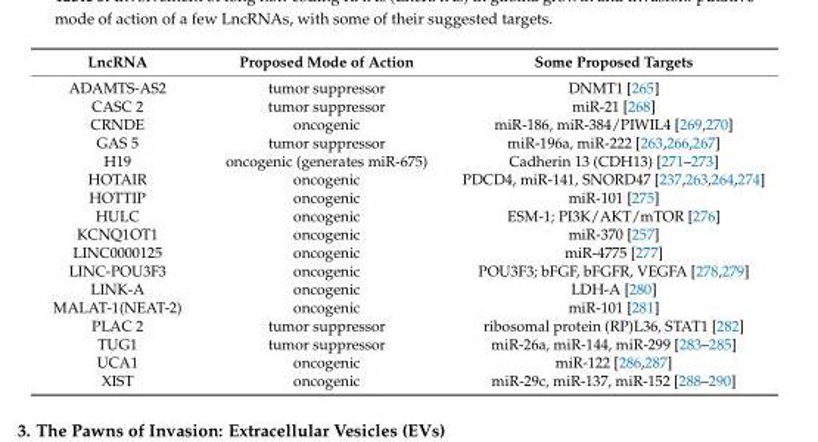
<table><thead><tr><td>LncRNA</td><td>Proposed Mode of Action</td><td>Some Proposed Targets</td></tr></thead><tbody><tr><td>ADAMTS-AS2</td><td>tumor suppressor</td><td>DNMT1 [265]</td></tr><tr><td>CASC 2</td><td>tumor suppressor</td><td>miR-21 [268]</td></tr><tr><td>CRNDE</td><td>oncogenic</td><td>miR-186, miR-384/PIWIL4 [269,270]</td></tr><tr><td>GAS 5</td><td>tumor suppressor</td><td>miR-196a, miR-222 [263,266,267]</td></tr><tr><td>H19</td><td>oncogenic (generates miR-675)</td><td>Cadherin 13 (CDH13) [271–273]</td></tr><tr><td>HOTAIR</td><td>oncogenic</td><td>PDCD4, miR-141, SNORD47 [237,263,264,274]</td></tr><tr><td>HOTTIP</td><td>oncogenic</td><td>miR-101 [275]</td></tr><tr><td>HULC</td><td>oncogenic</td><td>ESM-1; PI3K/AKT/mTOR [276]</td></tr><tr><td>KCNQ1OT1</td><td>oncogenic</td><td>miR-370 [257]</td></tr><tr><td>LINC0000125</td><td>oncogenic</td><td>miR-4775 [277]</td></tr><tr><td>LINC-POU3F3</td><td>oncogenic</td><td>POU3F3; bFGF, bFGFR, VEGFA [278,279]</td></tr><tr><td>LINK-A</td><td>oncogenic</td><td>LDH-A [280]</td></tr><tr><td>MALAT-1(NEAT-2)</td><td>oncogenic</td><td>miR-101 [281]</td></tr><tr><td>PLAC 2</td><td>tumor suppressor</td><td>ribosomal protein (RP)L36, STAT1 [282]</td></tr><tr><td>TUG1</td><td>tumor suppressor</td><td>miR-26a, miR-144, miR-299 [283–285]</td></tr><tr><td>UCA1</td><td>oncogenic</td><td>miR-122 [286,287]</td></tr><tr><td>XIST</td><td>oncogenic</td><td>miR-29c, miR-137, miR-152 [288–290]</td></tr></tbody></table>